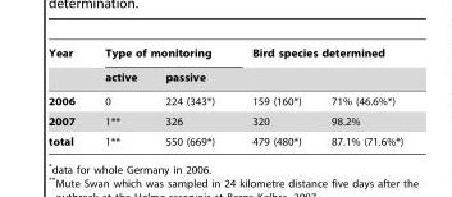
<table><thead><tr><td rowspan="2">Year</td><td colspan="2">Type of monitoring</td><td colspan="2">Bird species determined</td></tr><tr><td>active</td><td>passive</td><td></td><td></td></tr></thead><tbody><tr><td>2006</td><td>0</td><td>224 (343*)</td><td>159 (160*)</td><td>71% (46.6%*)</td></tr><tr><td>2007</td><td>1**</td><td>326</td><td>320</td><td>98.2%</td></tr><tr><td>total</td><td>1**</td><td>550 (669*)</td><td>479 (480*)</td><td>87.1% (71.6%*)</td></tr></tbody></table>